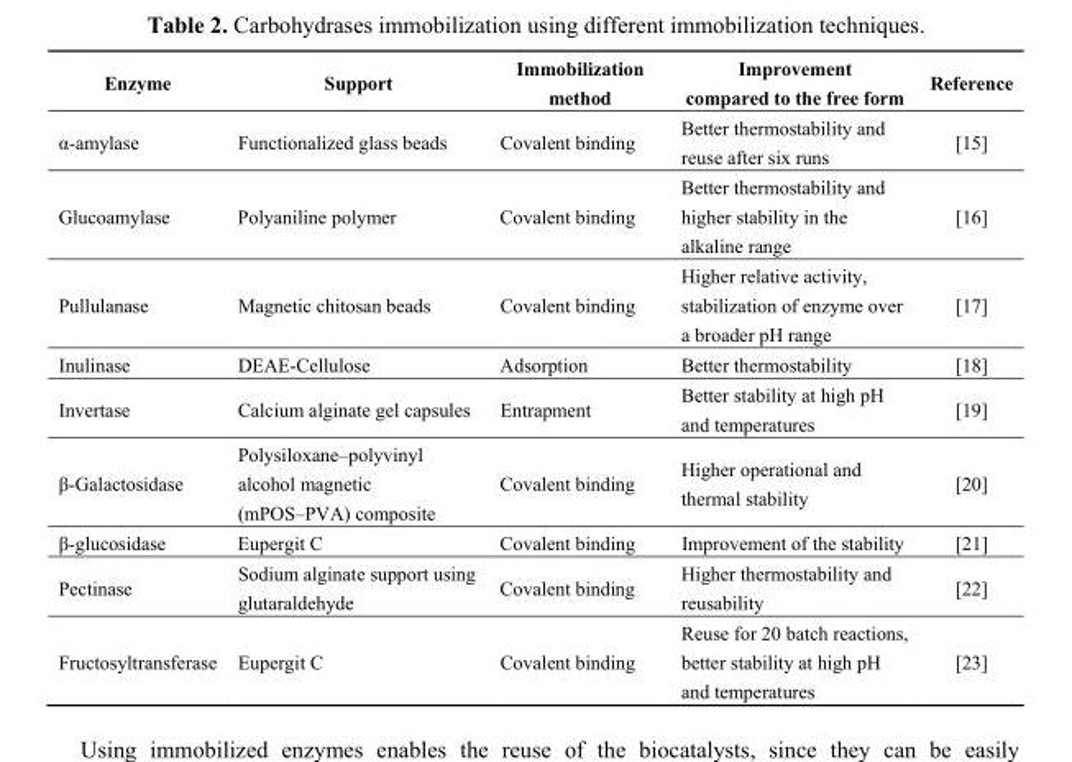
<table><thead><tr><td>Enzyme</td><td>Support</td><td>Immobilization method</td><td>Improvement compared to the free form</td><td>Reference</td></tr></thead><tbody><tr><td>α-amylase</td><td>Functionalized glass beads</td><td>Covalent binding</td><td>Better thermostability and reuse after six runs</td><td>[15]</td></tr><tr><td>Glucoamylase</td><td>Polyaniline polymer</td><td>Covalent binding</td><td>Better thermostability and higher stability in the alkaline range</td><td>[16]</td></tr><tr><td>Pullulanase</td><td>Magnetic chitosan beads</td><td>Covalent binding</td><td>Higher relative activity, stabilization of enzyme over a broader pH range</td><td>[17]</td></tr><tr><td>Inulinase</td><td>DEAE-Cellulose</td><td>Adsorption</td><td>Better thermostability</td><td>[18]</td></tr><tr><td>Invertase</td><td>Calcium alginate gel capsules</td><td>Entrapment</td><td>Better stability at high pH and temperatures</td><td>[19]</td></tr><tr><td>β-Galactosidase</td><td>Polysiloxane–polyvinyl alcohol magnetic (mPOS–PVA) composite</td><td>Covalent binding</td><td>Higher operational and thermal stability</td><td>[20]</td></tr><tr><td>β-glucosidase</td><td>Eupergit C</td><td>Covalent binding</td><td>Improvement of the stability</td><td>[21]</td></tr><tr><td>Pectinase</td><td>Sodium alginate support using glutaraldehyde</td><td>Covalent binding</td><td>Higher thermostability and reusability</td><td>[22]</td></tr><tr><td>Fructosyltransferase</td><td>Eupergit C</td><td>Covalent binding</td><td>Reuse for 20 batch reactions, better stability at high pH and temperatures</td><td>[23]</td></tr></tbody></table>